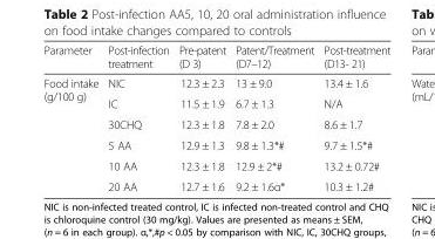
<table><thead><tr><td>Parameter</td><td>Post-infection treatment</td><td>Pre-patent (D 3)</td><td>Patent/Treatment (D7–12)</td><td>Post-treatment (D13- 21)</td></tr></thead><tbody><tr><td rowspan="6">Food intake (g/100 g)</td><td>NIC</td><td>12.3 ± 2.3</td><td>13 ± 9.0</td><td>13.4 ± 1.6</td></tr><tr><td>IC</td><td>11.5 ± 1.9</td><td>6.7 ± 1.3</td><td>N/A</td></tr><tr><td>30CHQ</td><td>12.3 ± 1.8</td><td>7.8 ± 2.0</td><td>8.6 ± 1.7</td></tr><tr><td>5 AA</td><td>12.9 ± 1.3</td><td>9.8 ± 1.3*#</td><td>9.7 ± 1.5*#</td></tr><tr><td>10 AA</td><td>12.3 ± 1.8</td><td>12.9 ± 2*#</td><td>13.2 ± 0.72#</td></tr><tr><td>20 AA</td><td>12.7 ± 1.6</td><td>9.2 ± 1.6α*</td><td>10.3 ± 1.2#</td></tr></tbody></table>